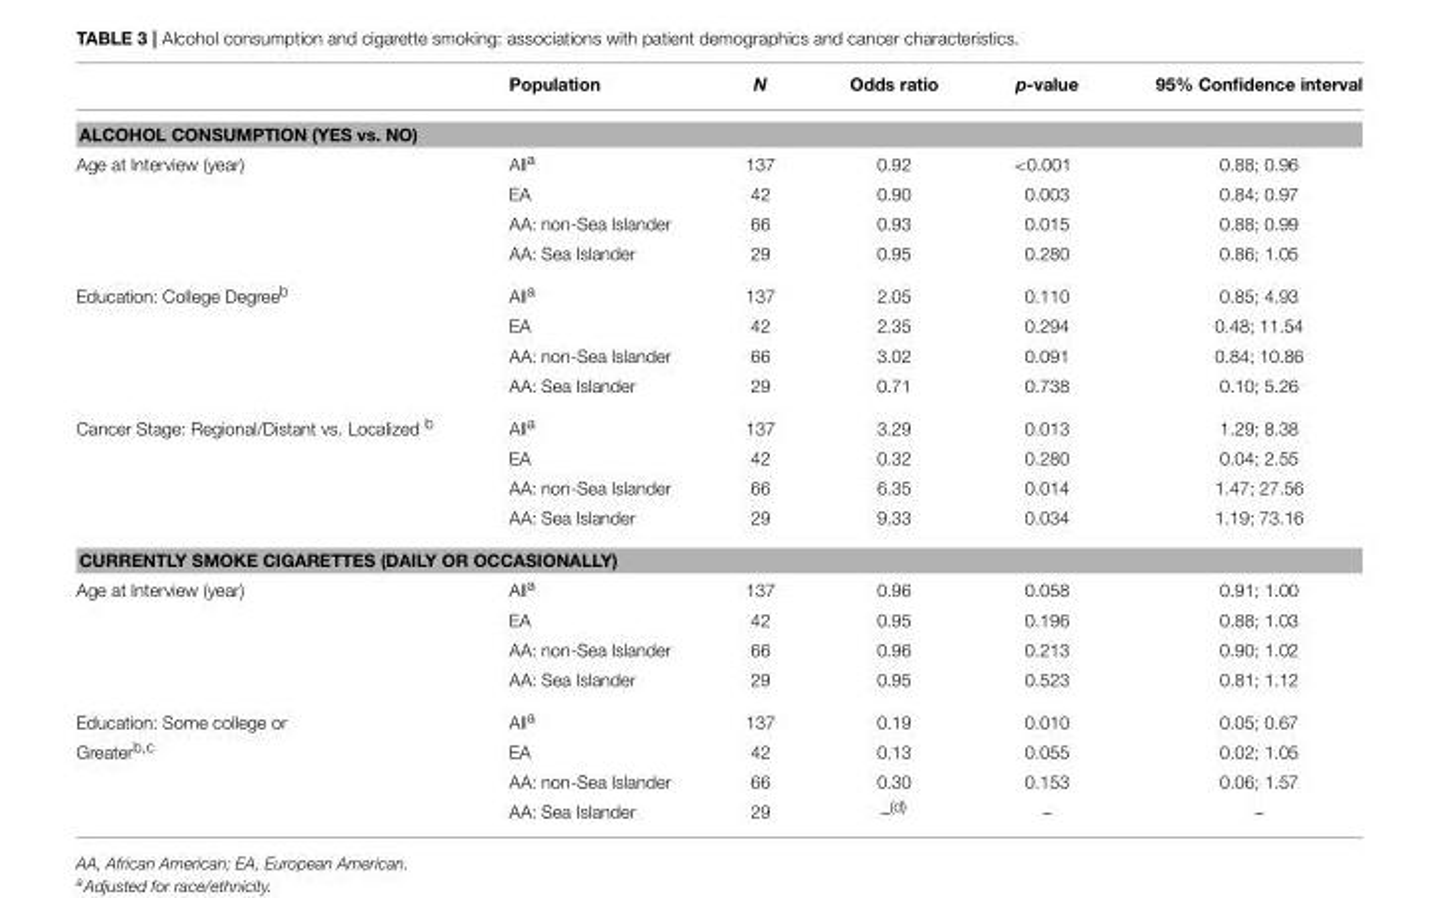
<table><thead><tr><td></td><td>Population</td><td>N</td><td>Odds ratio</td><td>p-value</td><td>95% Confidence interval</td></tr></thead><tbody><tr><td colspan="6">ALCOHOL CONSUMPTION (YES vs. NO)</td></tr><tr><td rowspan="4">Age at Interview (year)</td><td>All<sup>a</sup></td><td>137</td><td>0.92</td><td>&lt;0.001</td><td>0.88; 0.96</td></tr><tr><td>EA</td><td>42</td><td>0.90</td><td>0.003</td><td>0.84; 0.97</td></tr><tr><td>AA: non-Sea Islander</td><td>66</td><td>0.93</td><td>0.015</td><td>0.88; 0.99</td></tr><tr><td>AA: Sea Islander</td><td>29</td><td>0.95</td><td>0.280</td><td>0.86; 1.05</td></tr><tr><td rowspan="4">Education: College Degree<sup>b</sup></td><td>All<sup>a</sup></td><td>137</td><td>2.05</td><td>0.110</td><td>0.85; 4.93</td></tr><tr><td>EA</td><td>42</td><td>2.35</td><td>0.294</td><td>0.48; 11.54</td></tr><tr><td>AA: non-Sea Islander</td><td>66</td><td>3.02</td><td>0.091</td><td>0.84; 10.86</td></tr><tr><td>AA: Sea Islander</td><td>29</td><td>0.71</td><td>0.738</td><td>0.10; 5.26</td></tr><tr><td rowspan="4">Cancer Stage: Regional/Distant vs. Localized <sup>b</sup></td><td>All<sup>a</sup></td><td>137</td><td>3.29</td><td>0.013</td><td>1.29; 8.38</td></tr><tr><td>EA</td><td>42</td><td>0.32</td><td>0.280</td><td>0.04; 2.55</td></tr><tr><td>AA: non-Sea Islander</td><td>66</td><td>6.35</td><td>0.014</td><td>1.47; 27.56</td></tr><tr><td>AA: Sea Islander</td><td>29</td><td>9.33</td><td>0.034</td><td>1.19; 73.16</td></tr><tr><td colspan="6">CURRENTLY SMOKE CIGARETTES (DAILY OR OCCASIONALLY)</td></tr><tr><td rowspan="4">Age at Interview (year)</td><td>All<sup>a</sup></td><td>137</td><td>0.96</td><td>0.058</td><td>0.91; 1.00</td></tr><tr><td>EA</td><td>42</td><td>0.95</td><td>0.196</td><td>0.88; 1.03</td></tr><tr><td>AA: non-Sea Islander</td><td>66</td><td>0.96</td><td>0.213</td><td>0.90; 1.02</td></tr><tr><td>AA: Sea Islander</td><td>29</td><td>0.95</td><td>0.523</td><td>0.81; 1.12</td></tr><tr><td>Education: Some college or</td><td>All<sup>a</sup></td><td>137</td><td>0.19</td><td>0.010</td><td>0.05; 0.67</td></tr><tr><td rowspan="3">Greater<sup>b,c</sup></td><td>EA</td><td>42</td><td>0.13</td><td>0.055</td><td>0.02; 1.05</td></tr><tr><td>AA: non-Sea Islander</td><td>66</td><td>0.30</td><td>0.153</td><td>0.06; 1.57</td></tr><tr><td>AA: Sea Islander</td><td>29</td><td>–<sup>(d)</sup></td><td>–</td><td>–</td></tr></tbody></table>